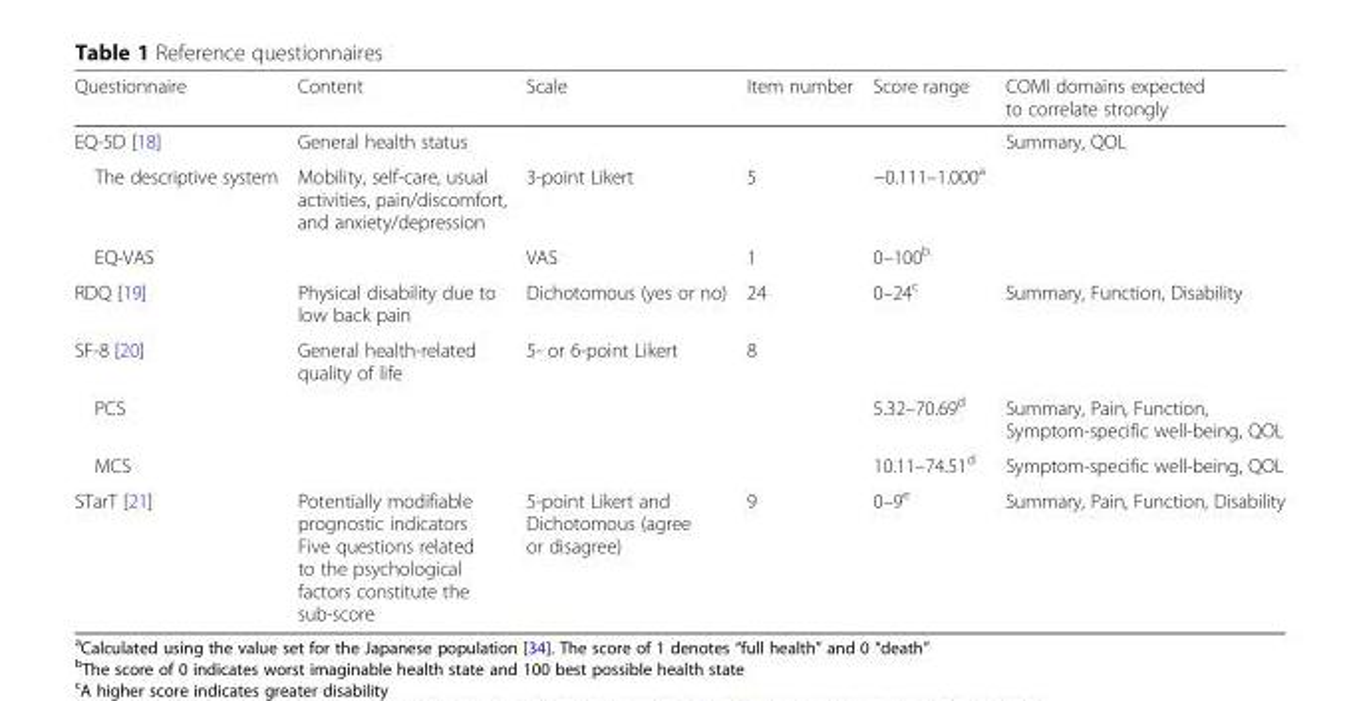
<table><thead><tr><td>Questionnaire</td><td>Content</td><td>Scale</td><td>Item number</td><td>Score range</td><td>COMI domains expected to correlate strongly</td></tr></thead><tbody><tr><td>EQ-5D [18]</td><td>General health status</td><td></td><td></td><td></td><td>Summary, QOL</td></tr><tr><td>The descriptive system</td><td>Mobility, self-care, usual activities, pain/discomfort, and anxiety/depression</td><td>3-point Likert</td><td>5</td><td>−0.111–1.000<sup>a</sup></td><td></td></tr><tr><td>EQ-VAS</td><td></td><td>VAS</td><td>1</td><td>0–100<sup>b</sup></td><td></td></tr><tr><td>RDQ [19]</td><td>Physical disability due to low back pain</td><td>Dichotomous (yes or no)</td><td>24</td><td>0–24<sup>c</sup></td><td>Summary, Function, Disability</td></tr><tr><td>SF-8 [20]</td><td>General health-related quality of life</td><td>5- or 6-point Likert</td><td>8</td><td></td><td></td></tr><tr><td>PCS</td><td></td><td></td><td></td><td>5.32–70.69<sup>d</sup></td><td>Summary, Pain, Function, Symptom-specific well-being, QOL</td></tr><tr><td>MCS</td><td></td><td></td><td></td><td>10.11–74.51<sup>d</sup></td><td>Symptom-specific well-being, QOL</td></tr><tr><td>STarT [21]</td><td>Potentially modifiable prognostic indicators Five questions related to the psychological factors constitute the sub-score</td><td>5-point Likert and Dichotomous (agree or disagree)</td><td>9</td><td>0–9<sup>e</sup></td><td>Summary, Pain, Function, Disability</td></tr></tbody></table>